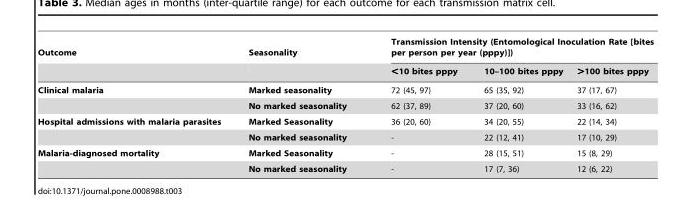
<table><thead><tr><td rowspan="2">Outcome</td><td rowspan="2">Seasonality</td><td colspan="3">Transmission Intensity (Entomological Inoculation Rate [bites per person per year (pppy)])</td></tr><tr><td>&lt;10 bites pppy</td><td>10–100 bites pppy</td><td>&gt;100 bites pppy</td></tr></thead><tbody><tr><td rowspan="2">Clinical malaria</td><td>Marked seasonality</td><td>72 (45, 97)</td><td>65 (35, 92)</td><td>37 (17, 67)</td></tr><tr><td>No marked seasonality</td><td>62 (37, 89)</td><td>37 (20, 60)</td><td>33 (16, 62)</td></tr><tr><td rowspan="2">Hospital admissions with malaria parasites</td><td>Marked Seasonality</td><td>36 (20, 60)</td><td>34 (20, 55)</td><td>22 (14, 34)</td></tr><tr><td>No marked seasonality</td><td>-</td><td>22 (12, 41)</td><td>17 (10, 29)</td></tr><tr><td rowspan="2">Malaria-diagnosed mortality</td><td>Marked Seasonality</td><td>-</td><td>28 (15, 51)</td><td>15 (8, 29)</td></tr><tr><td>No marked seasonality</td><td>-</td><td>17 (7, 36)</td><td>12 (6, 22)</td></tr></tbody></table>